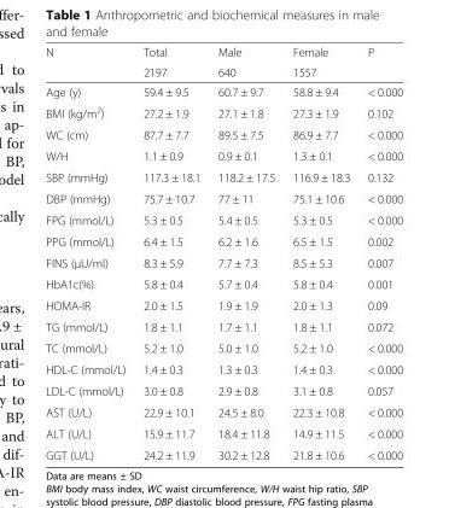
<table><thead><tr><td rowspan="2">N</td><td rowspan="2">Total 2197</td><td rowspan="2">Male 640</td><td rowspan="2">Female 1557</td><td rowspan="2">P</td></tr><tr></tr></thead><tbody><tr><td>Age (y)</td><td>59.4 ± 9.5</td><td>60.7 ± 9.7</td><td>58.8 ± 9.4</td><td>&lt; 0.000</td></tr><tr><td>BMI (kg/m<sup>2</sup>)</td><td>27.2 ± 1.9</td><td>27.1 ± 1.8</td><td>27.3 ± 1.9</td><td>0.102</td></tr><tr><td>WC (cm)</td><td>87.7 ± 7.7</td><td>89.5 ± 7.5</td><td>86.9 ± 7.7</td><td>&lt; 0.000</td></tr><tr><td>W/H</td><td>1.1 ± 0.9</td><td>0.9 ± 0.1</td><td>1.3 ± 0.1</td><td>&lt; 0.000</td></tr><tr><td>SBP (mmHg)</td><td>117.3 ± 18.1</td><td>118.2 ± 17.5</td><td>116.9 ± 18.3</td><td>0.132</td></tr><tr><td>DBP (mmHg)</td><td>75.7 ± 10.7</td><td>77 ± 11</td><td>75.1 ± 10.6</td><td>&lt; 0.000</td></tr><tr><td>FPG (mmol/L)</td><td>5.3 ± 0.5</td><td>5.4 ± 0.5</td><td>5.3 ± 0.5</td><td>&lt; 0.000</td></tr><tr><td>PPG (mmol/L)</td><td>6.4 ± 1.5</td><td>6.2 ± 1.6</td><td>6.5 ± 1.5</td><td>0.002</td></tr><tr><td>FINS (μU/ml)</td><td>8.3 ± 5.9</td><td>7.7 ± 7.3</td><td>8.5 ± 5.3</td><td>0.007</td></tr><tr><td>HbA1c(%)</td><td>5.8 ± 0.4</td><td>5.7 ± 0.4</td><td>5.8 ± 0.4</td><td>0.001</td></tr><tr><td>HOMA-IR</td><td>2.0 ± 1.5</td><td>1.9 ± 1.9</td><td>2.0 ± 1.3</td><td>0.09</td></tr><tr><td>TG (mmol/L)</td><td>1.8 ± 1.1</td><td>1.7 ± 1.1</td><td>1.8 ± 1.1</td><td>0.072</td></tr><tr><td>TC (mmol/L)</td><td>5.2 ± 1.0</td><td>5.0 ± 1.0</td><td>5.2 ± 1.0</td><td>&lt; 0.000</td></tr><tr><td>HDL-C (mmol/L)</td><td>1.4 ± 0.3</td><td>1.3 ± 0.3</td><td>1.4 ± 0.3</td><td>&lt; 0.000</td></tr><tr><td>LDL-C (mmol/L)</td><td>3.0 ± 0.8</td><td>2.9 ± 0.8</td><td>3.1 ± 0.8</td><td>0.057</td></tr><tr><td>AST (U/L)</td><td>22.9 ± 10.1</td><td>24.5 ± 8.0</td><td>22.3 ± 10.8</td><td>&lt; 0.000</td></tr><tr><td>ALT (U/L)</td><td>15.9 ± 11.7</td><td>18.4 ± 11.8</td><td>14.9 ± 11.5</td><td>&lt; 0.000</td></tr><tr><td>GGT (U/L)</td><td>24.2 ± 11.9</td><td>30.2 ± 12.8</td><td>21.8 ± 10.6</td><td>&lt; 0.000</td></tr></tbody></table>